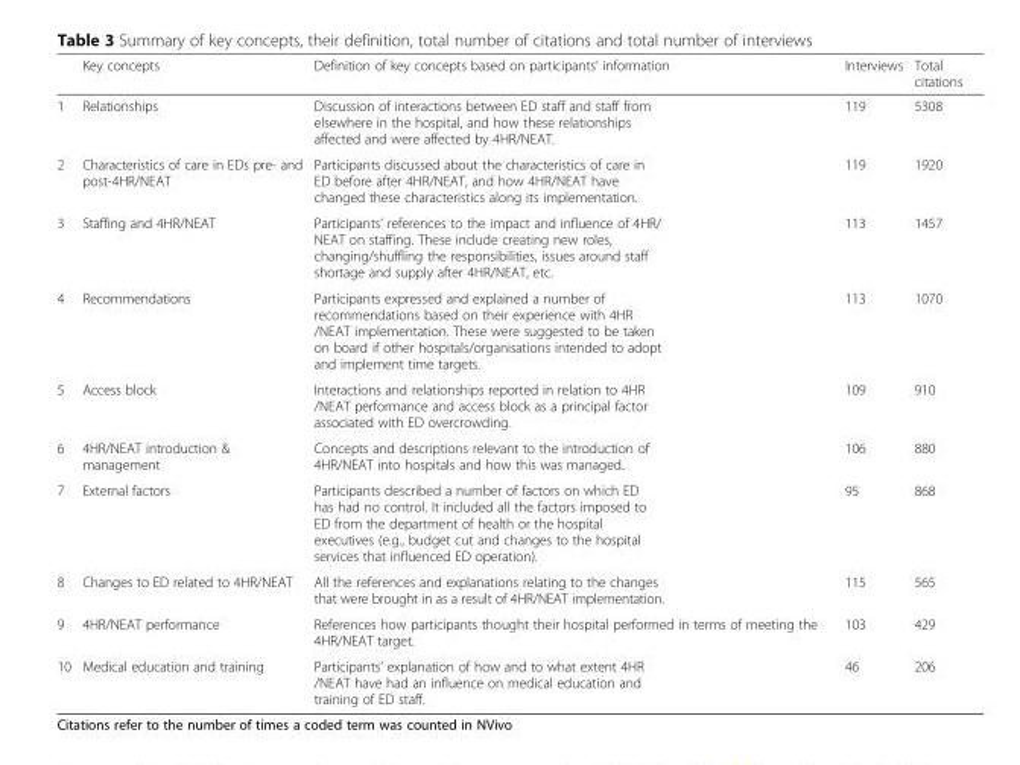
<table><thead><tr><td></td><td>Key concepts</td><td>Definition of key concepts based on participants’ information</td><td>Interviews</td><td>Total citations</td></tr></thead><tbody><tr><td>1</td><td>Relationships</td><td>Discussion of interactions between ED staff and staff from elsewhere in the hospital, and how these relationships affected and were affected by 4HR/NEAT.</td><td>119</td><td>5308</td></tr><tr><td>2</td><td>Characteristics of care in EDs pre- and post-4HR/NEAT</td><td>Participants discussed about the characteristics of care in ED before after 4HR/NEAT, and how 4HR/NEAT have changed these characteristics along its implementation.</td><td>119</td><td>1920</td></tr><tr><td>3</td><td>Staffing and 4HR/NEAT</td><td>Participants’ references to the impact and influence of 4HR/ NEAT on staffing. These include creating new roles, changing/shuffling the responsibilities, issues around staff shortage and supply after 4HR/NEAT, etc.</td><td>113</td><td>1457</td></tr><tr><td>4</td><td>Recommendations</td><td>Participants expressed and explained a number of recommendations based on their experience with 4HR /NEAT implementation. These were suggested to be taken on board if other hospitals/organisations intended to adopt and implement time targets.</td><td>113</td><td>1070</td></tr><tr><td>5</td><td>Access block</td><td>Interactions and relationships reported in relation to 4HR /NEAT performance and access block as a principal factor associated with ED overcrowding.</td><td>109</td><td>910</td></tr><tr><td>6</td><td>4HR/NEAT introduction &amp; management</td><td>Concepts and descriptions relevant to the introduction of 4HR/NEAT into hospitals and how this was managed.</td><td>106</td><td>880</td></tr><tr><td>7</td><td>External factors</td><td>Participants described a number of factors on which ED has had no control. It included all the factors imposed to ED from the department of health or the hospital executives (e.g., budget cut and changes to the hospital services that influenced ED operation).</td><td>95</td><td>868</td></tr><tr><td>8</td><td>Changes to ED related to 4HR/NEAT</td><td>All the references and explanations relating to the changes that were brought in as a result of 4HR/NEAT implementation.</td><td>115</td><td>565</td></tr><tr><td>9</td><td>4HR/NEAT performance</td><td>References how participants thought their hospital performed in terms of meeting the 4HR/NEAT target.</td><td>103</td><td>429</td></tr><tr><td>10</td><td>Medical education and training</td><td>Participants’ explanation of how and to what extent 4HR /NEAT have had an influence on medical education and training of ED staff.</td><td>46</td><td>206</td></tr></tbody></table>